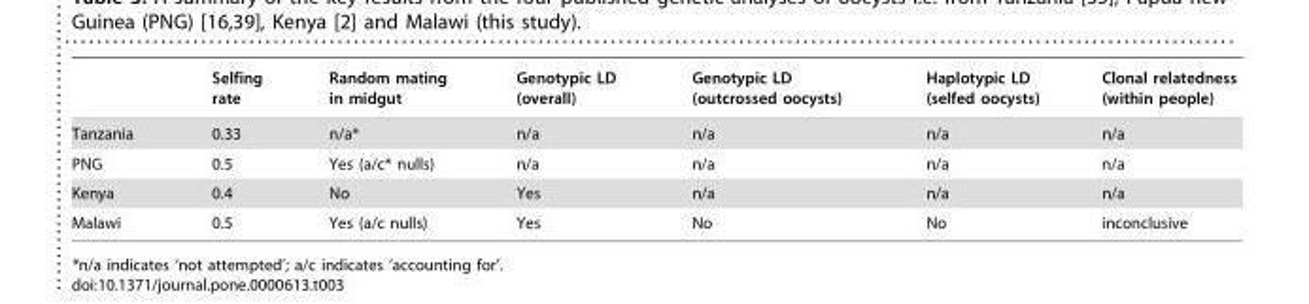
<table><thead><tr><td></td><td>Selfing rate</td><td>Random mating in midgut</td><td>Genotypic LD (overall)</td><td>Genotypic LD (outcrossed oocysts)</td><td>Haplotypic LD (selfed oocysts)</td><td>Clonal relatedness (within people)</td></tr></thead><tbody><tr><td>Tanzania</td><td>0.33</td><td>n/a*</td><td>n/a</td><td>n/a</td><td>n/a</td><td>n/a</td></tr><tr><td>PNG</td><td>0.5</td><td>Yes (a/c* nulls)</td><td>n/a</td><td>n/a</td><td>n/a</td><td>n/a</td></tr><tr><td>Kenya</td><td>0.4</td><td>No</td><td>Yes</td><td>n/a</td><td>n/a</td><td>n/a</td></tr><tr><td>Malawi</td><td>0.5</td><td>Yes (a/c nulls)</td><td>Yes</td><td>No</td><td>No</td><td>inconclusive</td></tr></tbody></table>